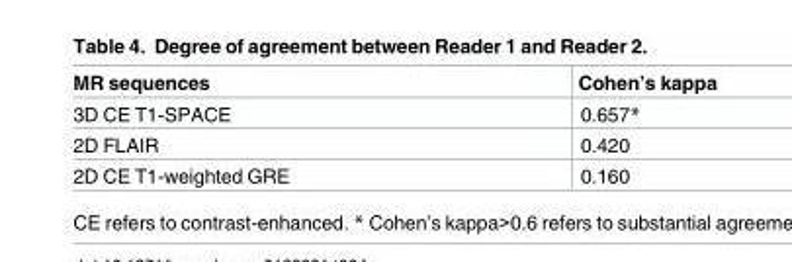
<table><thead><tr><td>MR sequences</td><td>Cohen’s kappa</td></tr></thead><tbody><tr><td>3D CE T1-SPACE</td><td>0.657*</td></tr><tr><td>2D FLAIR</td><td>0.420</td></tr><tr><td>2D CE T1-weighted GRE</td><td>0.160</td></tr></tbody></table>